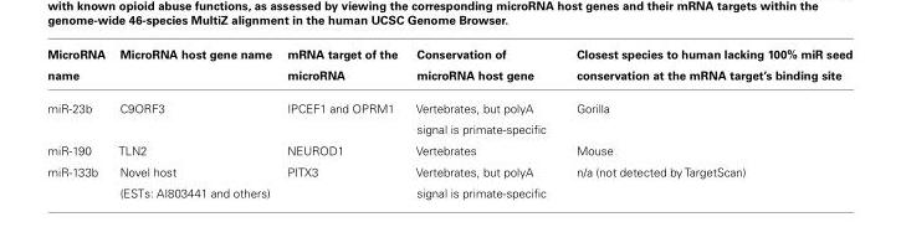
<table><thead><tr><td>MicroRNA name</td><td>MicroRNA host gene name</td><td>mRNA target of the microRNA</td><td>Conservation of microRNA host gene</td><td>Closest species to human lacking 100% miR seed conservation at the mRNA target’s binding site</td></tr></thead><tbody><tr><td>miR-23b</td><td>C9ORF3</td><td>IPCEF1 and OPRM1</td><td>Vertebrates, but polyA signal is primate-specific</td><td>Gorilla</td></tr><tr><td>miR-190</td><td>TLN2</td><td>NEUROD1</td><td>Vertebrates</td><td>Mouse</td></tr><tr><td>miR-133b</td><td>Novel host (ESTs: AI803441 and others)</td><td>PITX3</td><td>Vertebrates, but polyA signal is primate-specific</td><td>n/a (not detected by TargetScan)</td></tr></tbody></table>